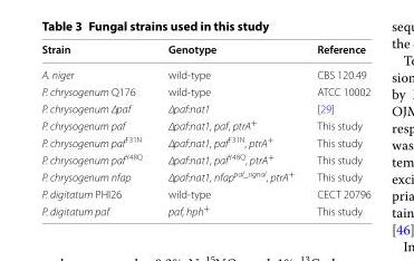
<table><thead><tr><td>Strain</td><td>Genotype</td><td>Reference</td></tr></thead><tbody><tr><td>A. niger</td><td>wild-type</td><td>CBS 120.49</td></tr><tr><td>P. chrysogenum Q176</td><td>wild-type</td><td>ATCC 10002</td></tr><tr><td>P. chrysogenum ∆paf</td><td>∆paf:nat1</td><td>[29]</td></tr><tr><td>P. chrysogenum paf</td><td>∆paf:nat1, paf, ptrA<sup>+</sup></td><td>This study</td></tr><tr><td>P. chrysogenum paf<sup>F31N</sup></td><td>∆paf:nat1, paf<sup>F31N</sup>, ptrA<sup>+</sup></td><td>This study</td></tr><tr><td>P. chrysogenum paf<sup>Y48Q</sup></td><td>∆paf:nat1, paf<sup>Y48Q</sup>, ptrA<sup>+</sup></td><td>This study</td></tr><tr><td>P. chrysogenum nfap</td><td>∆paf:nat1, nfap<sup>paf_signal</sup>, ptrA<sup>+</sup></td><td>This study</td></tr><tr><td>P. digitatum PHI26</td><td>wild-type</td><td>CECT 20796</td></tr><tr><td>P. digitatum paf</td><td>paf, hph<sup>+</sup></td><td>This study</td></tr></tbody></table>